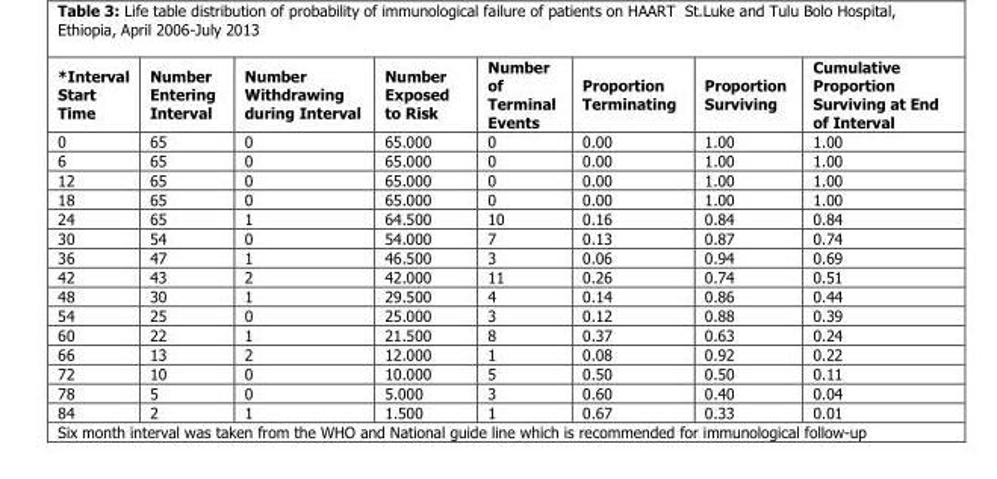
<table><thead><tr><td>*Interval Start Time</td><td>Number Entering Interval</td><td>Number Withdrawing during Interval</td><td>Number Exposed to Risk</td><td>Number of Terminal Events</td><td>Proportion Terminating</td><td>Proportion Surviving</td><td>Cumulative Proportion Surviving at End of Interval</td></tr></thead><tbody><tr><td>0</td><td>65</td><td>0</td><td>65.000</td><td>0</td><td>0.00</td><td>1.00</td><td>1.00</td></tr><tr><td>6</td><td>65</td><td>0</td><td>65.000</td><td>0</td><td>0.00</td><td>1.00</td><td>1.00</td></tr><tr><td>12</td><td>65</td><td>0</td><td>65.000</td><td>0</td><td>0.00</td><td>1.00</td><td>1.00</td></tr><tr><td>18</td><td>65</td><td>0</td><td>65.000</td><td>0</td><td>0.00</td><td>1.00</td><td>1.00</td></tr><tr><td>24</td><td>65</td><td>1</td><td>64.500</td><td>10</td><td>0.16</td><td>0.84</td><td>0.84</td></tr><tr><td>30</td><td>54</td><td>0</td><td>54.000</td><td>7</td><td>0.13</td><td>0.87</td><td>0.74</td></tr><tr><td>36</td><td>47</td><td>1</td><td>46.500</td><td>3</td><td>0.06</td><td>0.94</td><td>0.69</td></tr><tr><td>42</td><td>43</td><td>2</td><td>42.000</td><td>11</td><td>0.26</td><td>0.74</td><td>0.51</td></tr><tr><td>48</td><td>30</td><td>1</td><td>29.500</td><td>4</td><td>0.14</td><td>0.86</td><td>0.44</td></tr><tr><td>54</td><td>25</td><td>0</td><td>25.000</td><td>3</td><td>0.12</td><td>0.88</td><td>0.39</td></tr><tr><td>60</td><td>22</td><td>1</td><td>21.500</td><td>8</td><td>0.37</td><td>0.63</td><td>0.24</td></tr><tr><td>66</td><td>13</td><td>2</td><td>12.000</td><td>1</td><td>0.08</td><td>0.92</td><td>0.22</td></tr><tr><td>72</td><td>10</td><td>0</td><td>10.000</td><td>5</td><td>0.50</td><td>0.50</td><td>0.11</td></tr><tr><td>78</td><td>5</td><td>0</td><td>5.000</td><td>3</td><td>0.60</td><td>0.40</td><td>0.04</td></tr><tr><td>84</td><td>2</td><td>1</td><td>1.500</td><td>1</td><td>0.67</td><td>0.33</td><td>0.01</td></tr></tbody></table>